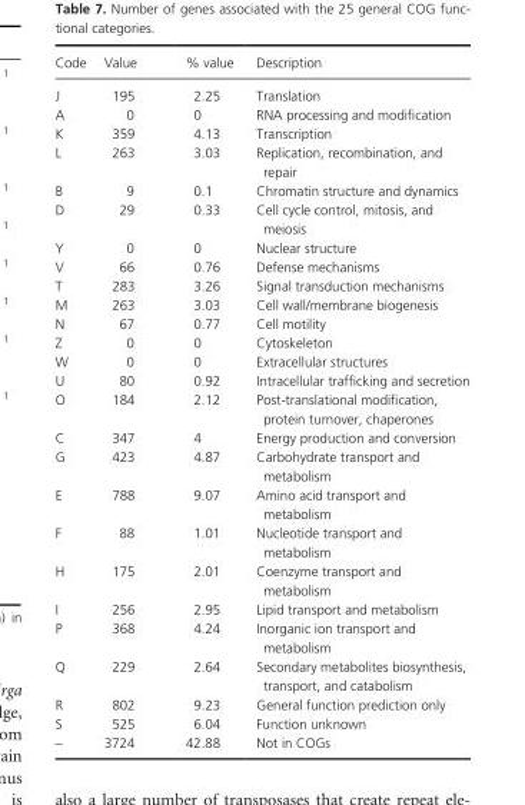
<table><thead><tr><td>Code</td><td>Value</td><td>% value</td><td>Description</td></tr></thead><tbody><tr><td>J</td><td>195</td><td>2.25</td><td>Translation</td></tr><tr><td>A</td><td>0</td><td>0</td><td>RNA processing and modification</td></tr><tr><td>K</td><td>359</td><td>4.13</td><td>Transcription</td></tr><tr><td>L</td><td>263</td><td>3.03</td><td>Replication, recombination, and repair</td></tr><tr><td>B</td><td>9</td><td>0.1</td><td>Chromatin structure and dynamics</td></tr><tr><td>D</td><td>29</td><td>0.33</td><td>Cell cycle control, mitosis, and meiosis</td></tr><tr><td>Y</td><td>0</td><td>0</td><td>Nuclear structure</td></tr><tr><td>V</td><td>66</td><td>0.76</td><td>Defense mechanisms</td></tr><tr><td>T</td><td>283</td><td>3.26</td><td>Signal transduction mechanisms</td></tr><tr><td>M</td><td>263</td><td>3.03</td><td>Cell wall/membrane biogenesis</td></tr><tr><td>N</td><td>67</td><td>0.77</td><td>Cell motility</td></tr><tr><td>Z</td><td>0</td><td>0</td><td>Cytoskeleton</td></tr><tr><td>W</td><td>0</td><td>0</td><td>Extracellular structures</td></tr><tr><td>U</td><td>80</td><td>0.92</td><td>Intracellular trafficking and secretion</td></tr><tr><td>O</td><td>184</td><td>2.12</td><td>Post- translational modification, protein turnover, chaperones</td></tr><tr><td>C</td><td>347</td><td>4</td><td>Energy production and conversion</td></tr><tr><td>G</td><td>423</td><td>4.87</td><td>Carbohydrate transport and metabolism</td></tr><tr><td>E</td><td>788</td><td>9.07</td><td>Amino acid transport and metabolism</td></tr><tr><td>F</td><td>88</td><td>1.01</td><td>Nucleotide transport and metabolism</td></tr><tr><td>H</td><td>175</td><td>2.01</td><td>Coenzyme transport and metabolism</td></tr><tr><td>I</td><td>256</td><td>2.95</td><td>Lipid transport and metabolism</td></tr><tr><td>P</td><td>368</td><td>4.24</td><td>Inorganic ion transport and metabolism</td></tr><tr><td>Q</td><td>229</td><td>2.64</td><td>Secondary metabolites biosynthesis, transport, and catabolism</td></tr><tr><td>R</td><td>802</td><td>9.23</td><td>General function prediction only</td></tr><tr><td>S</td><td>525</td><td>6.04</td><td>Function unknown</td></tr><tr><td>–</td><td>3724</td><td>42.88</td><td>Not in COGs</td></tr></tbody></table>